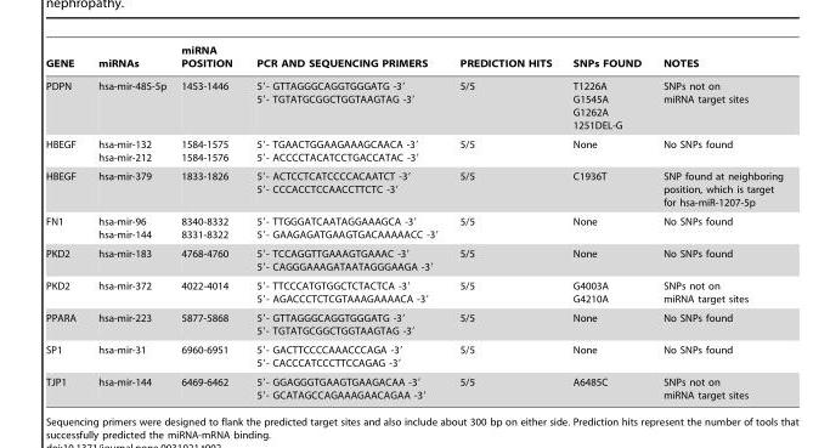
<table><thead><tr><td>GENE</td><td>miRNAs</td><td>miRNA POSITION</td><td>PCR AND SEQUENCING PRIMERS</td><td>PREDICTION HITS</td><td>SNPs FOUND</td><td>NOTES</td></tr></thead><tbody><tr><td>PDPN</td><td>hsa-mir-485-5p</td><td>1453-1446</td><td>5′- GTTAGGGCAGGTGGGATG -3′ 5′- TGTATGCGGCTGGTAAGTAG -3′</td><td>5/5</td><td>T1226A G1545A G1262A 1251DEL-G</td><td>SNPs not on miRNA target sites</td></tr><tr><td>HBEGF</td><td>hsa-mir-132 hsa-mir-212</td><td>1584-1575 1584-1576</td><td>5′- TGAACTGGAAGAAAGCAACA -3′ 5′- ACCCCTACATCCTGACCATAC -3′</td><td>5/5</td><td>None</td><td>No SNPs found</td></tr><tr><td>HBEGF</td><td>hsa-mir-379</td><td>1833-1826</td><td>5′- ACTCCTCATCCCCACAATCT -3′ 5′- CCCACCTCCAACCTTCTC -3′</td><td>5/5</td><td>C1936T</td><td>SNP found at neighboring position, which is target for hsa-miR-1207-5p</td></tr><tr><td>FN1</td><td>hsa-mir-96 hsa-mir-144</td><td>8340-8332 8331-8322</td><td>5′- TTGGGATCAATAGGAAAGCA -3′ 5′- GAAGAGATGAAGTGACAAAAACC -3′</td><td>5/5</td><td>None</td><td>No SNPs found</td></tr><tr><td>PKD2</td><td>hsa-mir-183</td><td>4768-4760</td><td>5′- TCCAGGTTGAAAGTGAAAC -3′ 5′- CAGGGAAAGATAATAGGGAAGA -3′</td><td>5/5</td><td>None</td><td>No SNPs found</td></tr><tr><td>PKD2</td><td>hsa-mir-372</td><td>4022-4014</td><td>5′- TTCCCATGTGGCTCTACTCA -3′ 5′- AGACCCTCTCGTAAAGAAAACA -3′</td><td>5/5</td><td>G4003A G4210A</td><td>SNPs not on miRNA target sites</td></tr><tr><td>PPARA</td><td>hsa-mir-223</td><td>5877-5868</td><td>5′- GTTAGGGCAGGTGGGATG -3′ 5′- TGTATGCGGCTGGTAAGTAG -3′</td><td>5/5</td><td>None</td><td>No SNPs found</td></tr><tr><td>SP1</td><td>hsa-mir-31</td><td>6960-6951</td><td>5′- GACTTCCCCAAACCCAGA -3′ 5′- CACCCATCCCTTCCAGAG -3′</td><td>5/5</td><td>None</td><td>No SNPs found</td></tr><tr><td>TJP1</td><td>hsa-mir-144</td><td>6469-6462</td><td>5′- GGAGGGTGAAGTGAAGACAA -3′ 5′- GCATAGCCAGAAAGAACAGAA -3′</td><td>5/5</td><td>A6485C</td><td>SNPs not on miRNA target sites</td></tr></tbody></table>